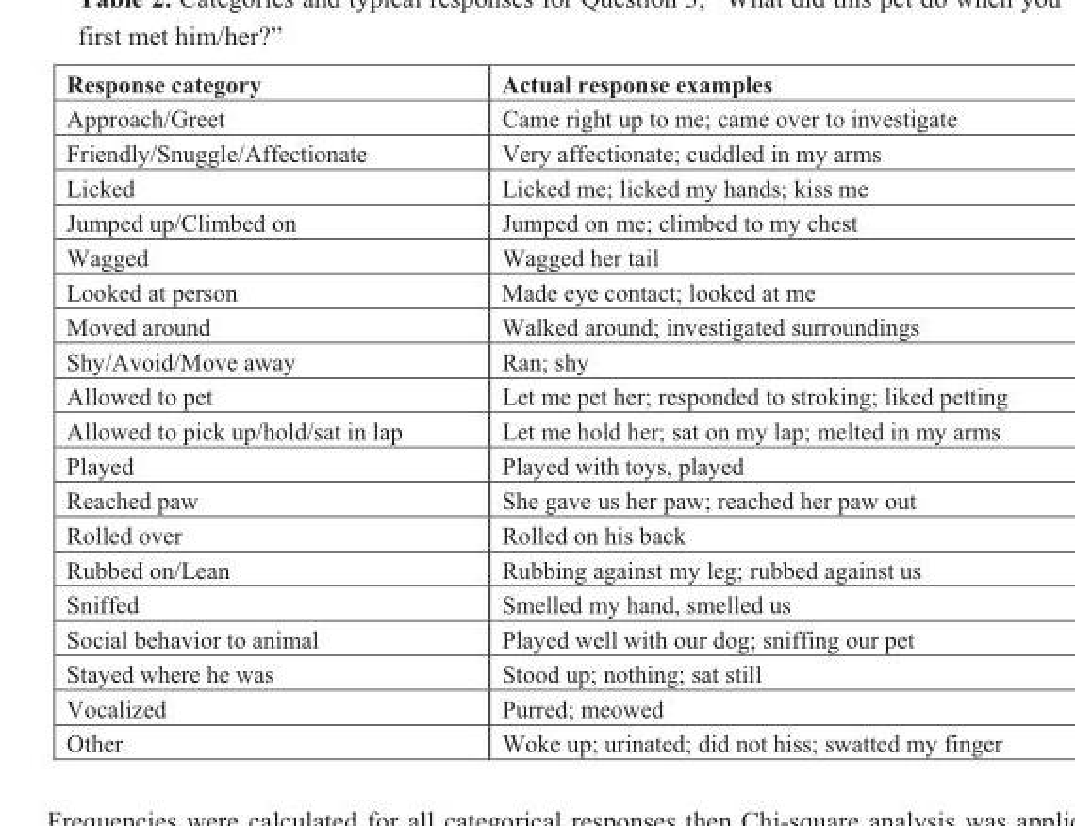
<table><thead><tr><td>Response category</td><td>Actual response examples</td></tr></thead><tbody><tr><td>Approach/Greet</td><td>Came right up to me; came over to investigate</td></tr><tr><td>Friendly/Snuggle/Affectionate</td><td>Very affectionate; cuddled in my arms</td></tr><tr><td>Licked</td><td>Licked me; licked my hands; kiss me</td></tr><tr><td>Jumped up/Climbed on</td><td>Jumped on me; climbed to my chest</td></tr><tr><td>Wagged</td><td>Wagged her tail</td></tr><tr><td>Looked at person</td><td>Made eye contact; looked at me</td></tr><tr><td>Moved around</td><td>Walked around; investigated surroundings</td></tr><tr><td>Shy/Avoid/Move away</td><td>Ran; shy</td></tr><tr><td>Allowed to pet</td><td>Let me pet her; responded to stroking; liked petting</td></tr><tr><td>Allowed to pick up/hold/sat in lap</td><td>Let me hold her; sat on my lap; melted in my arms</td></tr><tr><td>Played</td><td>Played with toys, played</td></tr><tr><td>Reached paw</td><td>She gave us her paw; reached her paw out</td></tr><tr><td>Rolled over</td><td>Rolled on his back</td></tr><tr><td>Rubbed on/Lean</td><td>Rubbing against my leg; rubbed against us</td></tr><tr><td>Sniffed</td><td>Smelled my hand, smelled us</td></tr><tr><td>Social behavior to animal</td><td>Played well with our dog; sniffing our pet</td></tr><tr><td>Stayed where he was</td><td>Stood up; nothing; sat still</td></tr><tr><td>Vocalized</td><td>Purred; meowed</td></tr><tr><td>Other</td><td>Woke up; urinated; did not hiss; swatted my finger</td></tr></tbody></table>